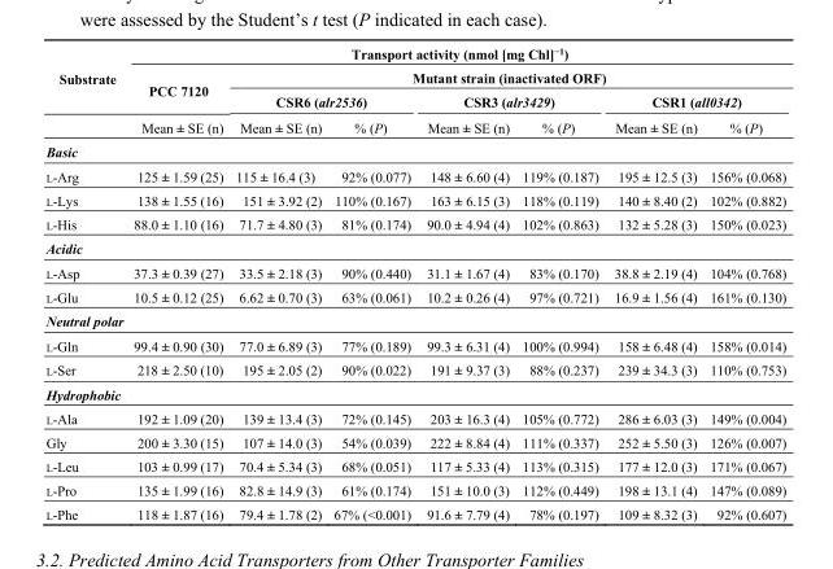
<table><thead><tr><td rowspan="4">Substrate</td><td colspan="7">Transport activity (nmol [mg Chl]<sup>−1</sup>)</td></tr><tr><td rowspan="3">PCC 7120 Mean ± SE (n)</td><td colspan="6">Mutant strain (inactivated ORF)</td></tr><tr><td colspan="2">CSR6 (alr2536)</td><td colspan="2">CSR3 (alr3429)</td><td colspan="2">CSR1 (all0342)</td></tr><tr><td>Mean ± SE (n)</td><td>% (P)</td><td>Mean ± SE (n)</td><td>% (P)</td><td>Mean ± SE (n)</td><td>% (P)</td></tr></thead><tbody><tr><td colspan="8">Basic</td></tr><tr><td>L-Arg</td><td>125 ± 1.59 (25)</td><td>115 ± 16.4 (3)</td><td>92% (0.077)</td><td>148 ± 6.60 (4)</td><td>119% (0.187)</td><td>195 ± 12.5 (3)</td><td>156% (0.068)</td></tr><tr><td>L-Lys</td><td>138 ± 1.55 (16)</td><td>151 ± 3.92 (2)</td><td>110% (0.167)</td><td>163 ± 6.15 (3)</td><td>118% (0.119)</td><td>140 ± 8.40 (2)</td><td>102% (0.882)</td></tr><tr><td>L-His</td><td>88.0 ± 1.10 (16)</td><td>71.7 ± 4.80 (3)</td><td>81% (0.174)</td><td>90.0 ± 4.94 (4)</td><td>102% (0.863)</td><td>132 ± 5.28 (3)</td><td>150% (0.023)</td></tr><tr><td colspan="8">Acidic</td></tr><tr><td>L-Asp</td><td>37.3 ± 0.39 (27)</td><td>33.5 ± 2.18 (3)</td><td>90% (0.440)</td><td>31.1 ± 1.67 (4)</td><td>83% (0.170)</td><td>38.8 ± 2.19 (4)</td><td>104% (0.768)</td></tr><tr><td>L-Glu</td><td>10.5 ± 0.12 (25)</td><td>6.62 ± 0.70 (3)</td><td>63% (0.061)</td><td>10.2 ± 0.26 (4)</td><td>97% (0.721)</td><td>16.9 ± 1.56 (4)</td><td>161% (0.130)</td></tr><tr><td colspan="8">Neutral polar</td></tr><tr><td>L-Gln</td><td>99.4 ± 0.90 (30)</td><td>77.0 ± 6.89 (3)</td><td>77% (0.189)</td><td>99.3 ± 6.31 (4)</td><td>100% (0.994)</td><td>158 ± 6.48 (4)</td><td>158% (0.014)</td></tr><tr><td>L-Ser</td><td>218 ± 2.50 (10)</td><td>195 ± 2.05 (2)</td><td>90% (0.022)</td><td>191 ± 9.37 (3)</td><td>88% (0.237)</td><td>239 ± 34.3 (3)</td><td>110% (0.753)</td></tr><tr><td colspan="8">Hydrophobic</td></tr><tr><td>L-Ala</td><td>192 ± 1.09 (20)</td><td>139 ± 13.4 (3)</td><td>72% (0.145)</td><td>203 ± 16.3 (4)</td><td>105% (0.772)</td><td>286 ± 6.03 (3)</td><td>149% (0.004)</td></tr><tr><td>Gly</td><td>200 ± 3.30 (15)</td><td>107 ± 14.0 (3)</td><td>54% (0.039)</td><td>222 ± 8.84 (4)</td><td>111% (0.337)</td><td>252 ± 5.50 (3)</td><td>126% (0.007)</td></tr><tr><td>L-Leu</td><td>103 ± 0.99 (17)</td><td>70.4 ± 5.34 (3)</td><td>68% (0.051)</td><td>117 ± 5.33 (4)</td><td>113% (0.315)</td><td>177 ± 12.0 (3)</td><td>171% (0.067)</td></tr><tr><td>L-Pro</td><td>135 ± 1.99 (16)</td><td>82.8 ± 14.9 (3)</td><td>61% (0.174)</td><td>151 ± 10.0 (3)</td><td>112% (0.449)</td><td>198 ± 13.1 (4)</td><td>147% (0.089)</td></tr><tr><td>L-Phe</td><td>118 ± 1.87 (16)</td><td>79.4 ± 1.78 (2)</td><td>67% (&lt;0.001)</td><td>91.6 ± 7.79 (4)</td><td>78% (0.197)</td><td>109 ± 8.32 (3)</td><td>92% (0.607)</td></tr></tbody></table>